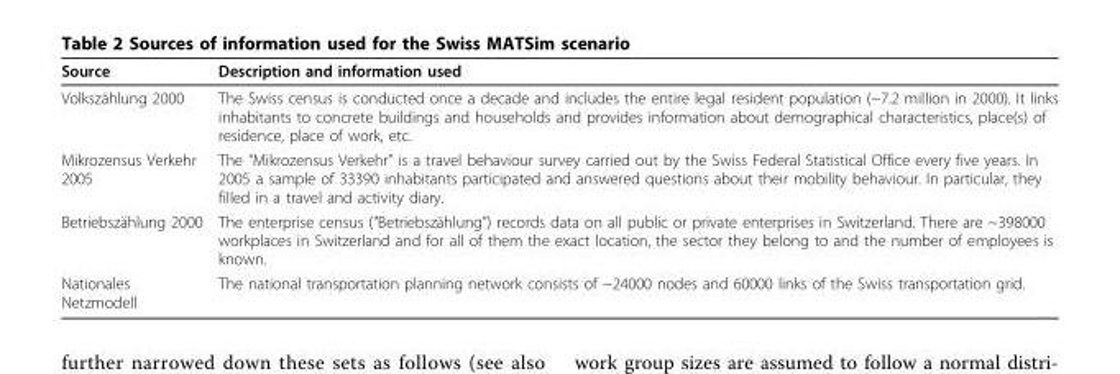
<table><thead><tr><td>Source</td><td>Description and information used</td></tr></thead><tbody><tr><td>Volkszählung 2000</td><td>The Swiss census is conducted once a decade and includes the entire legal resident population (~7.2 million in 2000). It links inhabitants to concrete buildings and households and provides information about demographical characteristics, place(s) of residence, place of work, etc.</td></tr><tr><td>Mikrozensus Verkehr 2005</td><td>The “Mikrozensus Verkehr” is a travel behaviour survey carried out by the Swiss Federal Statistical Office every five years. In 2005 a sample of 33390 inhabitants participated and answered questions about their mobility behaviour. In particular, they filled in a travel and activity diary.</td></tr><tr><td>Betriebszählung 2000</td><td>The enterprise census (&quot;Betriebszählung”) records data on all public or private enterprises in Switzerland. There are ~398000 workplaces in Switzerland and for all of them the exact location, the sector they belong to and the number of employees is known.</td></tr><tr><td>Nationales Netzmodell</td><td>The national transportation planning network consists of ~24000 nodes and 60000 links of the Swiss transportation grid.</td></tr></tbody></table>